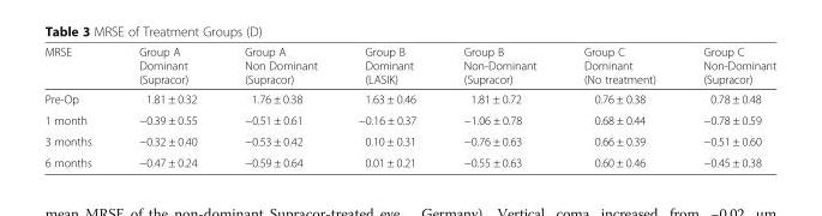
<table><thead><tr><td>MRSE</td><td>Group A Dominant (Supracor)</td><td>Group A Non Dominant (Supracor)</td><td>Group B Dominant (LASIK)</td><td>Group B Non-Dominant (Supracor)</td><td>Group C Dominant (No treatment)</td><td>Group C Non-Dominant (Supracor)</td></tr></thead><tbody><tr><td>Pre-Op</td><td>1.81 ± 0.32</td><td>1.76 ± 0.38</td><td>1.63 ± 0.46</td><td>1.81 ± 0.72</td><td>0.76 ± 0.38</td><td>0.78 ± 0.48</td></tr><tr><td>1 month</td><td>−0.39 ± 0.55</td><td>−0.51 ± 0.61</td><td>−0.16 ± 0.37</td><td>−1.06 ± 0.78</td><td>0.68 ± 0.44</td><td>−0.78 ± 0.59</td></tr><tr><td>3 months</td><td>−0.32 ± 0.40</td><td>−0.53 ± 0.42</td><td>0.10 ± 0.31</td><td>−0.76 ± 0.63</td><td>0.66 ± 0.39</td><td>−0.51 ± 0.60</td></tr><tr><td>6 months</td><td>−0.47 ± 0.24</td><td>−0.59 ± 0.64</td><td>0.01 ± 0.21</td><td>−0.55 ± 0.63</td><td>0.60 ± 0.46</td><td>−0.45 ± 0.38</td></tr></tbody></table>